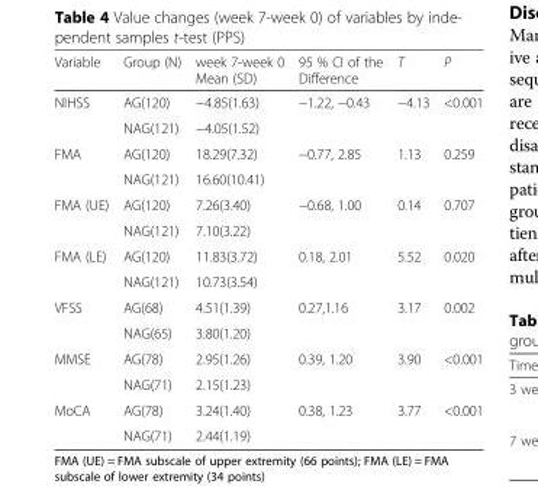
<table><thead><tr><td>Variable</td><td>Group (N)</td><td>week 7-week 0 Mean (SD)</td><td>95 % CI of the Difference</td><td>T</td><td>P</td></tr></thead><tbody><tr><td rowspan="2">NIHSS</td><td>AG(120)</td><td>−4.85(1.63)</td><td>−1.22, −0.43</td><td>−4.13</td><td>&lt;0.001</td></tr><tr><td>NAG(121)</td><td>−4.05(1.52)</td><td></td><td></td><td></td></tr><tr><td rowspan="2">FMA</td><td>AG(120)</td><td>18.29(7.32)</td><td>−0.77, 2.85</td><td>1.13</td><td>0.259</td></tr><tr><td>NAG(121)</td><td>16.60(10.41)</td><td></td><td></td><td></td></tr><tr><td rowspan="2">FMA (UE)</td><td>AG(120)</td><td>7.26(3.40)</td><td>−0.68, 1.00</td><td>0.14</td><td>0.707</td></tr><tr><td>NAG(121)</td><td>7.10(3.22)</td><td></td><td></td><td></td></tr><tr><td rowspan="2">FMA (LE)</td><td>AG(120)</td><td>11.83(3.72)</td><td>0.18, 2.01</td><td>5.52</td><td>0.020</td></tr><tr><td>NAG(121)</td><td>10.73(3.54)</td><td></td><td></td><td></td></tr><tr><td rowspan="2">VFSS</td><td>AG(68)</td><td>4.51(1.39)</td><td>0.27,1.16</td><td>3.17</td><td>0.002</td></tr><tr><td>NAG(65)</td><td>3.80(1.20)</td><td></td><td></td><td></td></tr><tr><td rowspan="2">MMSE</td><td>AG(78)</td><td>2.95(1.26)</td><td>0.39, 1.20</td><td>3.90</td><td>&lt;0.001</td></tr><tr><td>NAG(71)</td><td>2.15(1.23)</td><td></td><td></td><td></td></tr><tr><td rowspan="2">MoCA</td><td>AG(78)</td><td>3.24(1.40)</td><td>0.38, 1.23</td><td>3.77</td><td>&lt;0.001</td></tr><tr><td>NAG(71)</td><td>2.44(1.19)</td><td></td><td></td><td></td></tr></tbody></table>